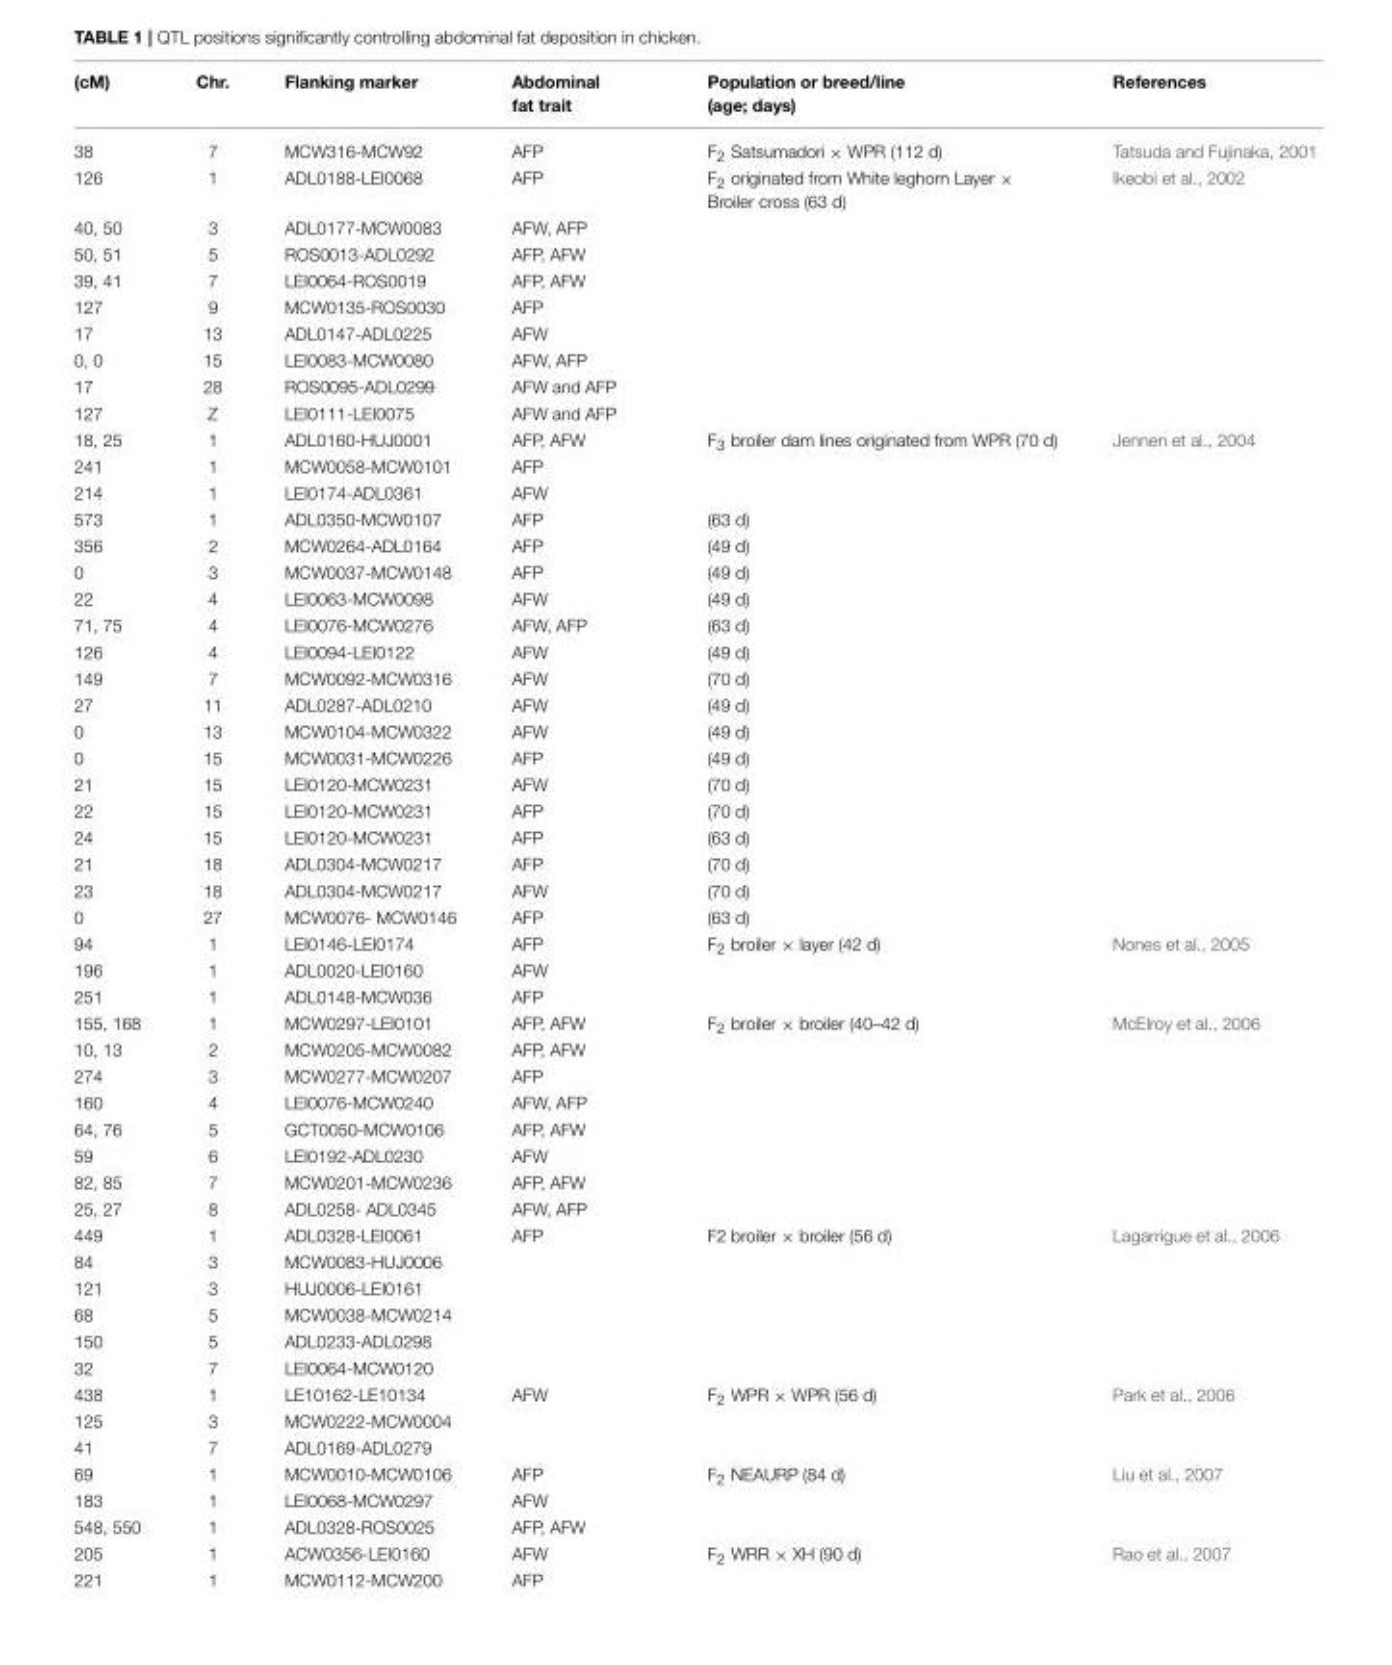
<table><thead><tr><td>(cM)</td><td>Chr.</td><td>Flanking marker</td><td>Abdominal fat trait</td><td>Population or breed/line (age; days)</td><td>References</td></tr></thead><tbody><tr><td>38</td><td>7</td><td>MCW316-MCW92</td><td>AFP</td><td>F<sub>2</sub> Satsumadori × WPR (112 d)</td><td>Tatsuda and Fujinaka, 2001</td></tr><tr><td>126</td><td>1</td><td>ADL0188-LEI0068</td><td>AFP</td><td>F<sub>2</sub> originated from White leghorn Layer × Broiler cross (63 d)</td><td>Ikeobi et al., 2002</td></tr><tr><td>40, 50</td><td>3</td><td>ADL0177-MCW0083</td><td>AFW, AFP</td><td></td><td></td></tr><tr><td>50, 51</td><td>5</td><td>ROS0013-ADL0292</td><td>AFP, AFW</td><td></td><td></td></tr><tr><td>39, 41</td><td>7</td><td>LEI0064-ROS0019</td><td>AFP, AFW</td><td></td><td></td></tr><tr><td>127</td><td>9</td><td>MCW0135-ROS0030</td><td>AFP</td><td></td><td></td></tr><tr><td>17</td><td>13</td><td>ADL0147-ADL0225</td><td>AFW</td><td></td><td></td></tr><tr><td>0, 0</td><td>15</td><td>LEI0083-MCW0080</td><td>AFW, AFP</td><td></td><td></td></tr><tr><td>17</td><td>28</td><td>ROS0095-ADL0299</td><td>AFW and AFP</td><td></td><td></td></tr><tr><td>127</td><td>Z</td><td>LEI0111-LEI0075</td><td>AFW and AFP</td><td></td><td></td></tr><tr><td>18, 25</td><td>1</td><td>ADL0160-HUJ0001</td><td>AFP, AFW</td><td>F<sub>3</sub> broiler dam lines originated from WPR (70 d)</td><td>Jennen et al., 2004</td></tr><tr><td>241</td><td>1</td><td>MCW0058-MCW0101</td><td>AFP</td><td></td><td></td></tr><tr><td>214</td><td>1</td><td>LEI0174-ADL0361</td><td>AFW</td><td></td><td></td></tr><tr><td>573</td><td>1</td><td>ADL0350-MCW0107</td><td>AFP</td><td>(63 d)</td><td></td></tr><tr><td>356</td><td>2</td><td>MCW0264-ADL0164</td><td>AFP</td><td>(49 d)</td><td></td></tr><tr><td>0</td><td>3</td><td>MCW0037-MCW0148</td><td>AFP</td><td>(49 d)</td><td></td></tr><tr><td>22</td><td>4</td><td>LEI0063-MCW0098</td><td>AFW</td><td>(49 d)</td><td></td></tr><tr><td>71, 75</td><td>4</td><td>LEI0076-MCW0276</td><td>AFW, AFP</td><td>(63 d)</td><td></td></tr><tr><td>126</td><td>4</td><td>LEI0094-LEI0122</td><td>AFW</td><td>(49 d)</td><td></td></tr><tr><td>149</td><td>7</td><td>MCW0092-MCW0316</td><td>AFW</td><td>(70 d)</td><td></td></tr><tr><td>27</td><td>11</td><td>ADL0287-ADL0210</td><td>AFW</td><td>(49 d)</td><td></td></tr><tr><td>0</td><td>13</td><td>MCW0104-MCW0322</td><td>AFW</td><td>(49 d)</td><td></td></tr><tr><td>0</td><td>15</td><td>MCW0031-MCW0226</td><td>AFP</td><td>(49 d)</td><td></td></tr><tr><td>21</td><td>15</td><td>LEI0120-MCW0231</td><td>AFW</td><td>(70 d)</td><td></td></tr><tr><td>22</td><td>15</td><td>LEI0120-MCW0231</td><td>AFP</td><td>(70 d)</td><td></td></tr><tr><td>24</td><td>15</td><td>LEI0120-MCW0231</td><td>AFP</td><td>(63 d)</td><td></td></tr><tr><td>21</td><td>18</td><td>ADL0304-MCW0217</td><td>AFP</td><td>(70 d)</td><td></td></tr><tr><td>23</td><td>18</td><td>ADL0304-MCW0217</td><td>AFW</td><td>(70 d)</td><td></td></tr><tr><td>0</td><td>27</td><td>MCW0076- MCW0146</td><td>AFP</td><td>(63 d)</td><td></td></tr><tr><td>94</td><td>1</td><td>LEI0146-LEI0174</td><td>AFP</td><td>F<sub>2</sub> broiler × layer (42 d)</td><td>Nones et al., 2005</td></tr><tr><td>196</td><td>1</td><td>ADL0020-LEI0160</td><td>AFW</td><td></td><td></td></tr><tr><td>251</td><td>1</td><td>ADL0148-MCW036</td><td>AFP</td><td></td><td></td></tr><tr><td>155, 168</td><td>1</td><td>MCW0297-LEI0101</td><td>AFP, AFW</td><td>F<sub>2</sub> broiler × broiler (40–42 d)</td><td>McElroy et al., 2006</td></tr><tr><td>10, 13</td><td>2</td><td>MCW0205-MCW0082</td><td>AFP, AFW</td><td></td><td></td></tr><tr><td>274</td><td>3</td><td>MCW0277-MCW0207</td><td>AFP</td><td></td><td></td></tr><tr><td>160</td><td>4</td><td>LEI0076-MCW0240</td><td>AFW, AFP</td><td></td><td></td></tr><tr><td>64, 76</td><td>5</td><td>GCT0050-MCW0106</td><td>AFP, AFW</td><td></td><td></td></tr><tr><td>59</td><td>6</td><td>LEI0192-ADL0230</td><td>AFW</td><td></td><td></td></tr><tr><td>82, 85</td><td>7</td><td>MCW0201-MCW0236</td><td>AFP, AFW</td><td></td><td></td></tr><tr><td>25, 27</td><td>8</td><td>ADL0258- ADL0345</td><td>AFW, AFP</td><td></td><td></td></tr><tr><td>449</td><td>1</td><td>ADL0328-LEI0061</td><td>AFP</td><td>F2 broiler × broiler (56 d)</td><td>Lagarrigue et al., 2006</td></tr><tr><td>84</td><td>3</td><td>MCW0083-HUJ0006</td><td></td><td></td><td></td></tr><tr><td>121</td><td>3</td><td>HUJ0006-LEI0161</td><td></td><td></td><td></td></tr><tr><td>68</td><td>5</td><td>MCW0038-MCW0214</td><td></td><td></td><td></td></tr><tr><td>150</td><td>5</td><td>ADL0233-ADL0298</td><td></td><td></td><td></td></tr><tr><td>32</td><td>7</td><td>LEI0064-MCW0120</td><td></td><td></td><td></td></tr><tr><td>438</td><td>1</td><td>LE10162-LE10134</td><td>AFW</td><td>F<sub>2</sub> WPR × WPR (56 d)</td><td>Park et al., 2006</td></tr><tr><td>125</td><td>3</td><td>MCW0222-MCW0004</td><td></td><td></td><td></td></tr><tr><td>41</td><td>7</td><td>ADL0169-ADL0279</td><td></td><td></td><td></td></tr><tr><td>69</td><td>1</td><td>MCW0010-MCW0106</td><td>AFP</td><td>F<sub>2</sub> NEAURP (84 d)</td><td>Liu et al., 2007</td></tr><tr><td>183</td><td>1</td><td>LEI0068-MCW0297</td><td>AFW</td><td></td><td></td></tr><tr><td>548, 550</td><td>1</td><td>ADL0328-ROS0025</td><td>AFP, AFW</td><td></td><td></td></tr><tr><td>205</td><td>1</td><td>ACW0356-LEI0160</td><td>AFW</td><td>F<sub>2</sub> WRR × XH (90 d)</td><td>Rao et al., 2007</td></tr><tr><td>221</td><td>1</td><td>MCW0112-MCW200</td><td>AFP</td><td></td><td></td></tr></tbody></table>